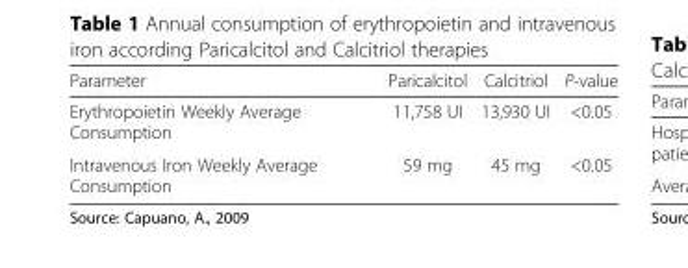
<table><thead><tr><td>Parameter</td><td>Paricalcitol</td><td>Calcitriol</td><td>P-value</td></tr></thead><tbody><tr><td>Erythropoietin Weekly Average Consumption</td><td>11,758 UI</td><td>13,930 UI</td><td>&lt;0.05</td></tr><tr><td>Intravenous Iron Weekly Average Consumption</td><td>59 mg</td><td>45 mg</td><td>&lt;0.05</td></tr></tbody></table>